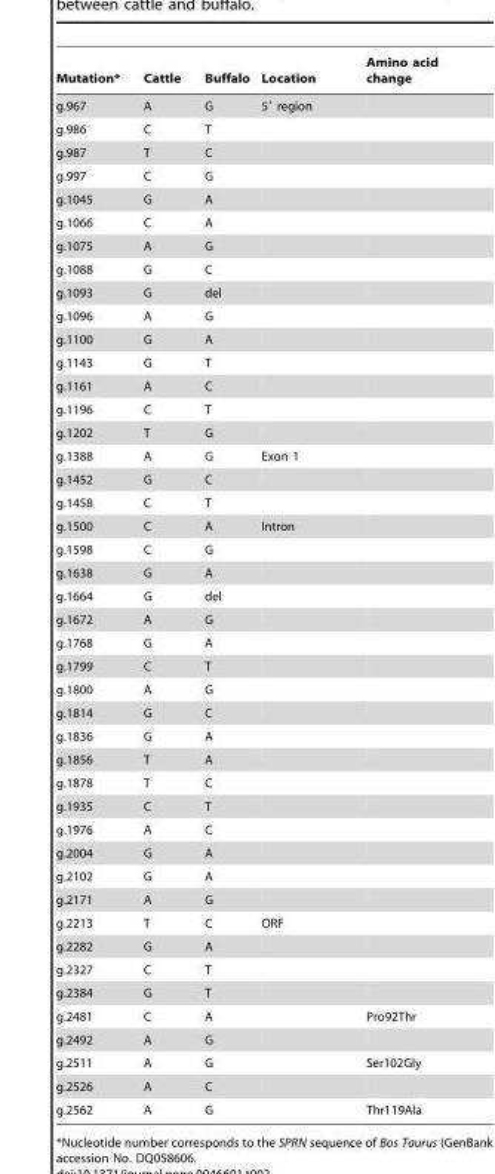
<table><thead><tr><td>Mutation*</td><td>Cattle</td><td>Buffalo</td><td>Location</td><td>Amino acid change</td></tr></thead><tbody><tr><td>g.967</td><td>A</td><td>G</td><td>5′ region</td><td></td></tr><tr><td>g.986</td><td>C</td><td>T</td><td></td><td></td></tr><tr><td>g.987</td><td>T</td><td>C</td><td></td><td></td></tr><tr><td>g.997</td><td>C</td><td>G</td><td></td><td></td></tr><tr><td>g.1045</td><td>G</td><td>A</td><td></td><td></td></tr><tr><td>g.1066</td><td>C</td><td>A</td><td></td><td></td></tr><tr><td>g.1075</td><td>A</td><td>G</td><td></td><td></td></tr><tr><td>g.1088</td><td>G</td><td>C</td><td></td><td></td></tr><tr><td>g.1093</td><td>G</td><td>del</td><td></td><td></td></tr><tr><td>g.1096</td><td>A</td><td>G</td><td></td><td></td></tr><tr><td>g.1100</td><td>G</td><td>A</td><td></td><td></td></tr><tr><td>g.1143</td><td>G</td><td>T</td><td></td><td></td></tr><tr><td>g.1161</td><td>A</td><td>C</td><td></td><td></td></tr><tr><td>g.1196</td><td>C</td><td>T</td><td></td><td></td></tr><tr><td>g.1202</td><td>T</td><td>G</td><td></td><td></td></tr><tr><td>g.1388</td><td>A</td><td>G</td><td>Exon 1</td><td></td></tr><tr><td>g.1452</td><td>G</td><td>C</td><td></td><td></td></tr><tr><td>g.1458</td><td>C</td><td>T</td><td></td><td></td></tr><tr><td>g.1500</td><td>C</td><td>A</td><td>Intron</td><td></td></tr><tr><td>g.1598</td><td>C</td><td>G</td><td></td><td></td></tr><tr><td>g.1638</td><td>G</td><td>A</td><td></td><td></td></tr><tr><td>g.1664</td><td>G</td><td>del</td><td></td><td></td></tr><tr><td>g.1672</td><td>A</td><td>G</td><td></td><td></td></tr><tr><td>g.1768</td><td>G</td><td>A</td><td></td><td></td></tr><tr><td>g.1799</td><td>C</td><td>T</td><td></td><td></td></tr><tr><td>g.1800</td><td>A</td><td>G</td><td></td><td></td></tr><tr><td>g.1814</td><td>G</td><td>C</td><td></td><td></td></tr><tr><td>g.1836</td><td>G</td><td>A</td><td></td><td></td></tr><tr><td>g.1856</td><td>T</td><td>A</td><td></td><td></td></tr><tr><td>g.1878</td><td>T</td><td>C</td><td></td><td></td></tr><tr><td>g.1935</td><td>C</td><td>T</td><td></td><td></td></tr><tr><td>g.1976</td><td>A</td><td>C</td><td></td><td></td></tr><tr><td>g.2004</td><td>G</td><td>A</td><td></td><td></td></tr><tr><td>g.2102</td><td>G</td><td>A</td><td></td><td></td></tr><tr><td>g.2171</td><td>A</td><td>G</td><td></td><td></td></tr><tr><td>g.2213</td><td>T</td><td>C</td><td>ORF</td><td></td></tr><tr><td>g.2282</td><td>G</td><td>A</td><td></td><td></td></tr><tr><td>g.2327</td><td>C</td><td>T</td><td></td><td></td></tr><tr><td>g.2384</td><td>G</td><td>T</td><td></td><td></td></tr><tr><td>g.2481</td><td>C</td><td>A</td><td></td><td>Pro92Thr</td></tr><tr><td>g.2492</td><td>A</td><td>G</td><td></td><td></td></tr><tr><td>g.2511</td><td>A</td><td>G</td><td></td><td>Ser102Gly</td></tr><tr><td>g.2526</td><td>A</td><td>C</td><td></td><td></td></tr><tr><td>g.2562</td><td>A</td><td>G</td><td></td><td>Thr119Ala</td></tr></tbody></table>